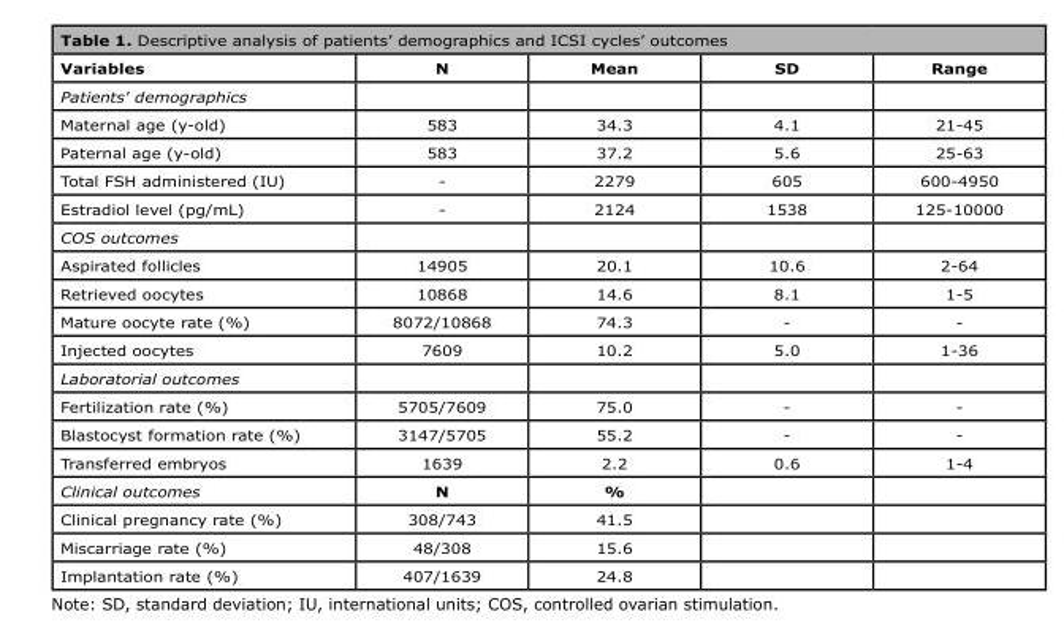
<table><thead><tr><td>Variables</td><td>N</td><td>Mean</td><td>SD</td><td>Range</td></tr></thead><tbody><tr><td colspan="5">Patients&#x27; demographics</td></tr><tr><td>Maternal age (y-old)</td><td>583</td><td>34.3</td><td>4.1</td><td>21-45</td></tr><tr><td>Paternal age (y-old)</td><td>583</td><td>37.2</td><td>5.6</td><td>25-63</td></tr><tr><td>Total FSH administered (IU)</td><td>-</td><td>2279</td><td>605</td><td>600-4950</td></tr><tr><td>Estradiol level (pg/mL)</td><td>-</td><td>2124</td><td>1538</td><td>125-10000</td></tr><tr><td colspan="5">COS outcomes</td></tr><tr><td>Aspirated follicles</td><td>14905</td><td>20.1</td><td>10.6</td><td>2-64</td></tr><tr><td>Retrieved oocytes</td><td>10868</td><td>14.6</td><td>8.1</td><td>1-5</td></tr><tr><td>Mature oocyte rate (%)</td><td>8072/10868</td><td>74.3</td><td>-</td><td>-</td></tr><tr><td>Injected oocytes</td><td>7609</td><td>10.2</td><td>5.0</td><td>1-36</td></tr><tr><td colspan="5">Laboratorial outcomes</td></tr><tr><td>Fertilization rate (%)</td><td>5705/7609</td><td>75.0</td><td>-</td><td>-</td></tr><tr><td>Blastocyst formation rate (%)</td><td>3147/5705</td><td>55.2</td><td>-</td><td>-</td></tr><tr><td>Transferred embryos</td><td>1639</td><td>2.2</td><td>0.6</td><td>1-4</td></tr><tr><td>Clinical outcomes</td><td>N</td><td>%</td><td></td><td></td></tr><tr><td>Clinical pregnancy rate (%)</td><td>308/743</td><td>41.5</td><td></td><td></td></tr><tr><td>Miscarriage rate (%)</td><td>48/308</td><td>15.6</td><td></td><td></td></tr><tr><td>Implantation rate (%)</td><td>407/1639</td><td>24.8</td><td></td><td></td></tr></tbody></table>